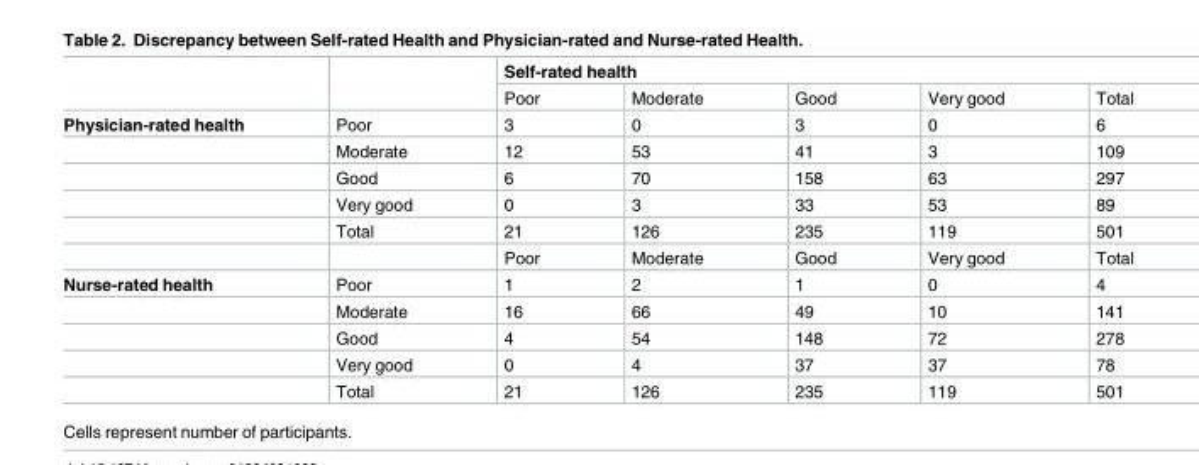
<table><thead><tr><td rowspan="2"></td><td rowspan="2"></td><td colspan="5">Self-rated health</td></tr><tr><td>Poor</td><td>Moderate</td><td>Good</td><td>Very good</td><td>Total</td></tr></thead><tbody><tr><td rowspan="6">Physician-rated health</td><td>Poor</td><td>3</td><td>0</td><td>3</td><td>0</td><td>6</td></tr><tr><td>Moderate</td><td>12</td><td>53</td><td>41</td><td>3</td><td>109</td></tr><tr><td>Good</td><td>6</td><td>70</td><td>158</td><td>63</td><td>297</td></tr><tr><td>Very good</td><td>0</td><td>3</td><td>33</td><td>53</td><td>89</td></tr><tr><td>Total</td><td>21</td><td>126</td><td>235</td><td>119</td><td>501</td></tr><tr><td></td><td>Poor</td><td>Moderate</td><td>Good</td><td>Very good</td><td>Total</td></tr><tr><td rowspan="5">Nurse-rated health</td><td>Poor</td><td>1</td><td>2</td><td>1</td><td>0</td><td>4</td></tr><tr><td>Moderate</td><td>16</td><td>66</td><td>49</td><td>10</td><td>141</td></tr><tr><td>Good</td><td>4</td><td>54</td><td>148</td><td>72</td><td>278</td></tr><tr><td>Very good</td><td>0</td><td>4</td><td>37</td><td>37</td><td>78</td></tr><tr><td>Total</td><td>21</td><td>126</td><td>235</td><td>119</td><td>501</td></tr></tbody></table>